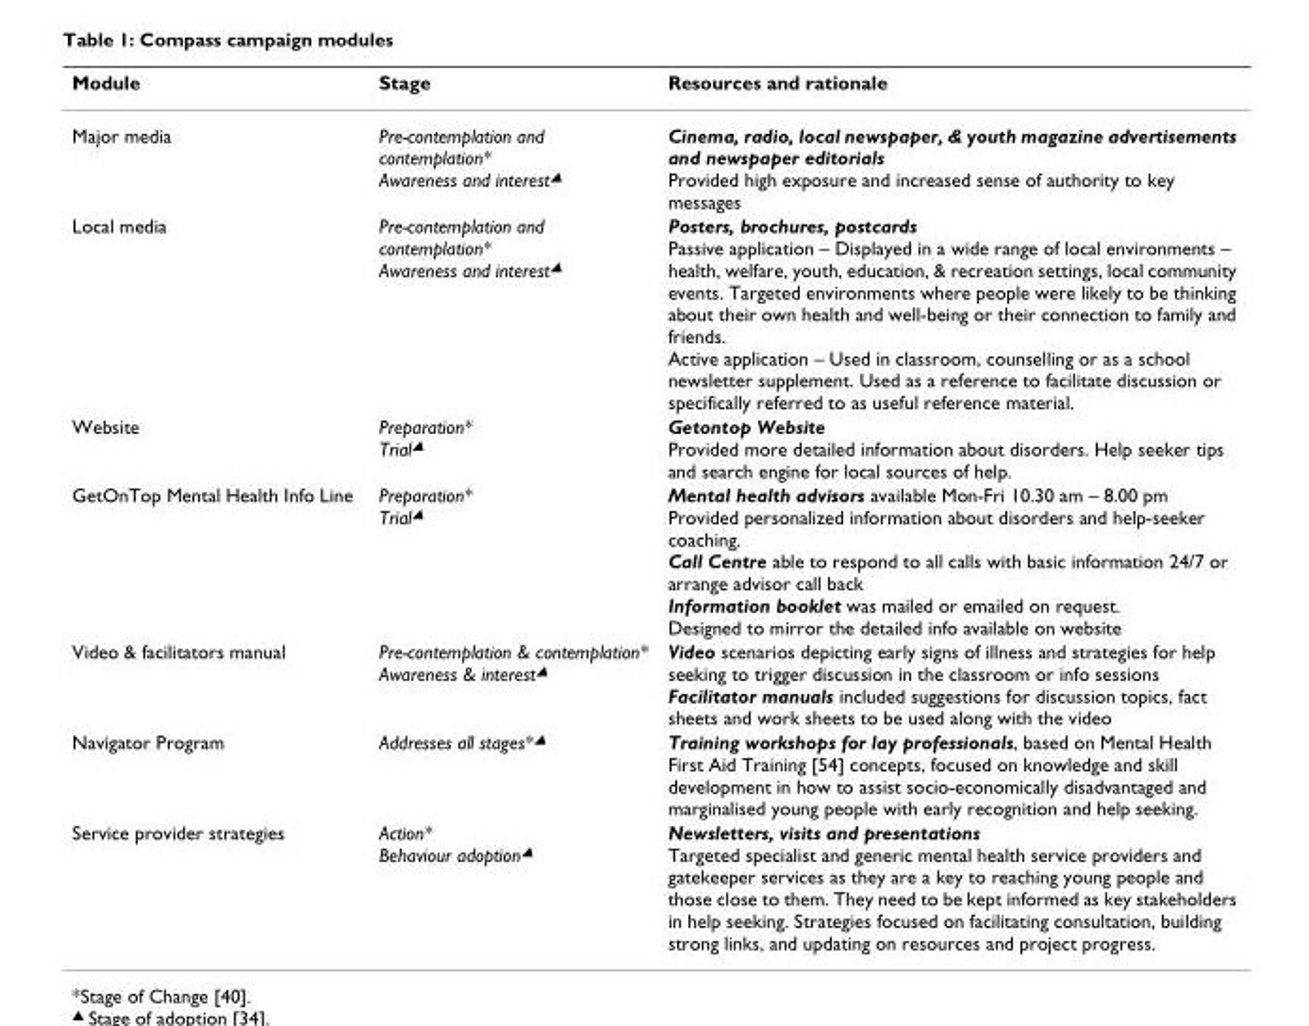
<table><thead><tr><td>Module</td><td>Stage</td><td>Resources and rationale</td></tr></thead><tbody><tr><td>Major media</td><td>Pre-contemplation and contemplation* Awareness and interest▲</td><td>Cinema, radio, local newspaper, &amp; youth magazine advertisements and newspaper editorials Provided high exposure and increased sense of authority to key messages</td></tr><tr><td>Local media</td><td>Pre-contemplation and contemplation* Awareness and interest▲</td><td>Posters, brochures, postcards Passive application – Displayed in a wide range of local environments – health, welfare, youth, education, &amp; recreation settings, local community events. Targeted environments where people were likely to be thinking about their own health and well-being or their connection to family and friends. Active application – Used in classroom, counselling or as a school newsletter supplement. Used as a reference to facilitate discussion or specifically referred to as useful reference material.</td></tr><tr><td>Website</td><td>Preparation* Trial▲</td><td>Getontop Website Provided more detailed information about disorders. Help seeker tips and search engine for local sources of help.</td></tr><tr><td>GetOnTop Mental Health Info Line</td><td>Preparation* Trial▲</td><td>Mental health advisors available Mon-Fri 10.30 am – 8.00 pm Provided personalized information about disorders and help-seeker coaching. Call Centre able to respond to all calls with basic information 24/7 or arrange advisor call back Information booklet was mailed or emailed on request. Designed to mirror the detailed info available on website</td></tr><tr><td>Video &amp; facilitators manual</td><td>Pre-contemplation &amp; contemplation* Awareness &amp; interest▲</td><td>Video scenarios depicting early signs of illness and strategies for help seeking to trigger discussion in the classroom or info sessions Facilitator manuals included suggestions for discussion topics, fact sheets and work sheets to be used along with the video</td></tr><tr><td>Navigator Program</td><td>Addresses all stages*▲</td><td>Training workshops for lay professionals, based on Mental Health First Aid Training [54] concepts, focused on knowledge and skill development in how to assist socio-economically disadvantaged and marginalised young people with early recognition and help seeking.</td></tr><tr><td>Service provider strategies</td><td>Action* Behaviour adoption▲</td><td>Newsletters, visits and presentations Targeted specialist and generic mental health service providers and gatekeeper services as they are a key to reaching young people and those close to them. They need to be kept informed as key stakeholders in help seeking. Strategies focused on facilitating consultation, building strong links, and updating on resources and project progress.</td></tr></tbody></table>